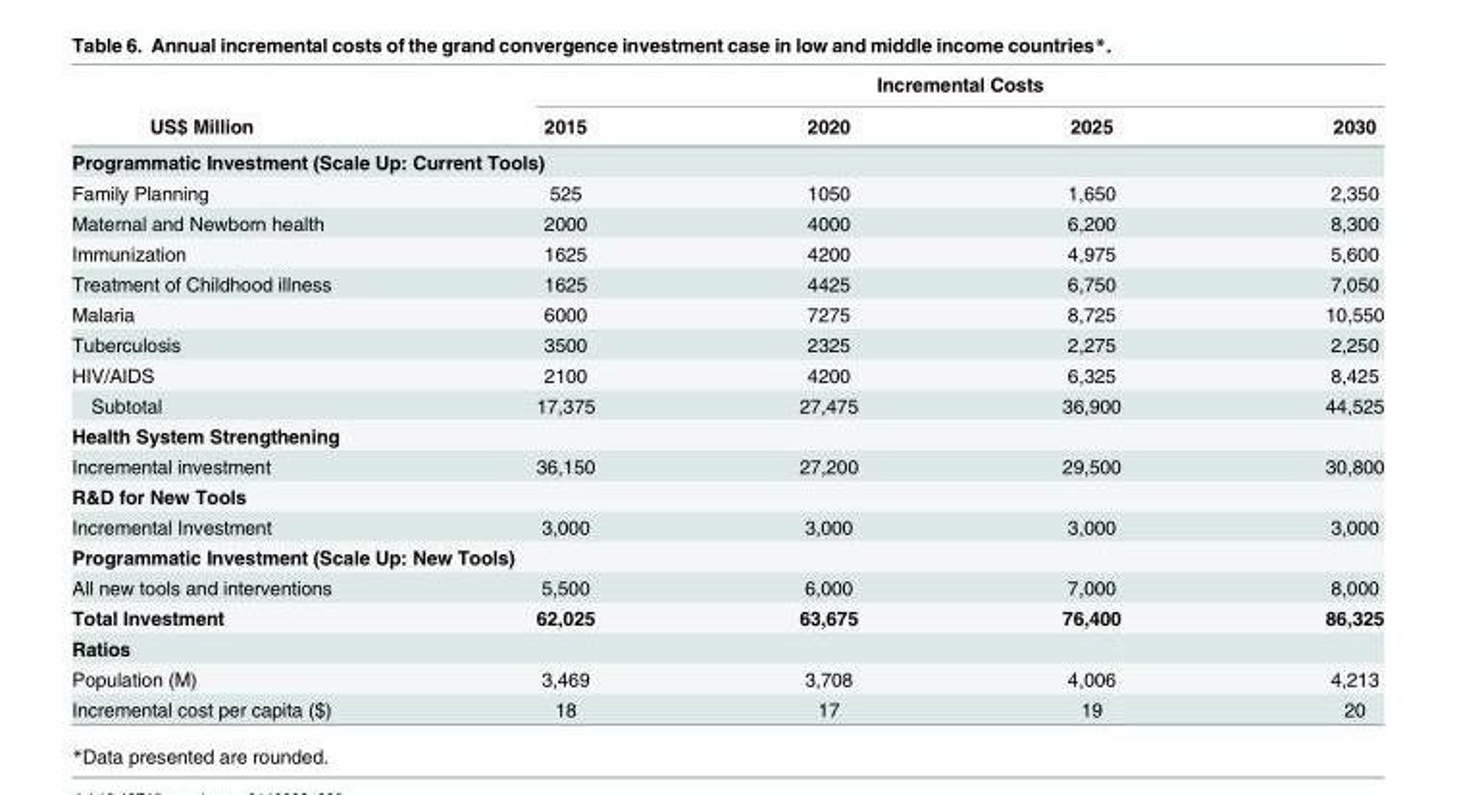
<table><thead><tr><td rowspan="2">US$ Million</td><td colspan="4">Incremental Costs</td></tr><tr><td>2015</td><td>2020</td><td>2025</td><td>2030</td></tr></thead><tbody><tr><td colspan="5">Programmatic Investment (Scale Up: Current Tools)</td></tr><tr><td>Family Planning</td><td>525</td><td>1050</td><td>1,650</td><td>2,350</td></tr><tr><td>Maternal and Newborn health</td><td>2000</td><td>4000</td><td>6,200</td><td>8,300</td></tr><tr><td>Immunization</td><td>1625</td><td>4200</td><td>4,975</td><td>5,600</td></tr><tr><td>Treatment of Childhood illness</td><td>1625</td><td>4425</td><td>6,750</td><td>7,050</td></tr><tr><td>Malaria</td><td>6000</td><td>7275</td><td>8,725</td><td>10,550</td></tr><tr><td>Tuberculosis</td><td>3500</td><td>2325</td><td>2,275</td><td>2,250</td></tr><tr><td>HIV/AIDS</td><td>2100</td><td>4200</td><td>6,325</td><td>8,425</td></tr><tr><td>Subtotal</td><td>17,375</td><td>27,475</td><td>36,900</td><td>44,525</td></tr><tr><td colspan="5">Health System Strengthening</td></tr><tr><td>Incremental investment</td><td>36,150</td><td>27,200</td><td>29,500</td><td>30,800</td></tr><tr><td colspan="5">R&amp;D for New Tools</td></tr><tr><td>Incremental Investment</td><td>3,000</td><td>3,000</td><td>3,000</td><td>3,000</td></tr><tr><td colspan="5">Programmatic Investment (Scale Up: New Tools)</td></tr><tr><td>All new tools and interventions</td><td>5,500</td><td>6,000</td><td>7,000</td><td>8,000</td></tr><tr><td>Total Investment</td><td>62,025</td><td>63,675</td><td>76,400</td><td>86,325</td></tr><tr><td colspan="5">Ratios</td></tr><tr><td>Population (M)</td><td>3,469</td><td>3,708</td><td>4,006</td><td>4,213</td></tr><tr><td>Incremental cost per capita ($)</td><td>18</td><td>17</td><td>19</td><td>20</td></tr></tbody></table>